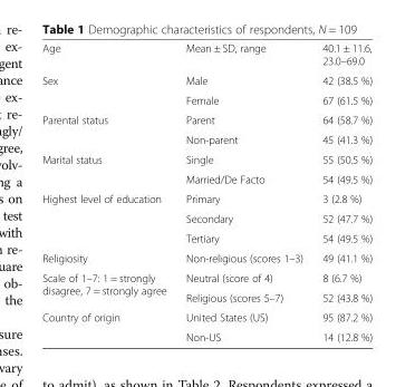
<table><tbody><tr><td>Age</td><td>Mean ± SD, range</td><td>40.1 ± 11.6, 23.0–69.0</td></tr><tr><td rowspan="2">Sex</td><td>Male</td><td>42 (38.5 %)</td></tr><tr><td>Female</td><td>67 (61.5 %)</td></tr><tr><td rowspan="2">Parental status</td><td>Parent</td><td>64 (58.7 %)</td></tr><tr><td>Non-parent</td><td>45 (41.3 %)</td></tr><tr><td rowspan="2">Marital status</td><td>Single</td><td>55 (50.5 %)</td></tr><tr><td>Married/De Facto</td><td>54 (49.5 %)</td></tr><tr><td rowspan="3">Highest level of education</td><td>Primary</td><td>3 (2.8 %)</td></tr><tr><td>Secondary</td><td>52 (47.7 %)</td></tr><tr><td>Tertiary</td><td>54 (49.5 %)</td></tr><tr><td>Religiosity</td><td>Non-religious (scores 1–3)</td><td>49 (41.1 %)</td></tr><tr><td rowspan="2">Scale of 1–7: 1 = strongly disagree, 7 = strongly agree</td><td>Neutral (score of 4)</td><td>8 (6.7 %)</td></tr><tr><td>Religious (scores 5–7)</td><td>52 (43.8 %)</td></tr><tr><td rowspan="2">Country of origin</td><td>United States (US)</td><td>95 (87.2 %)</td></tr><tr><td>Non-US</td><td>14 (12.8 %)</td></tr></tbody></table>